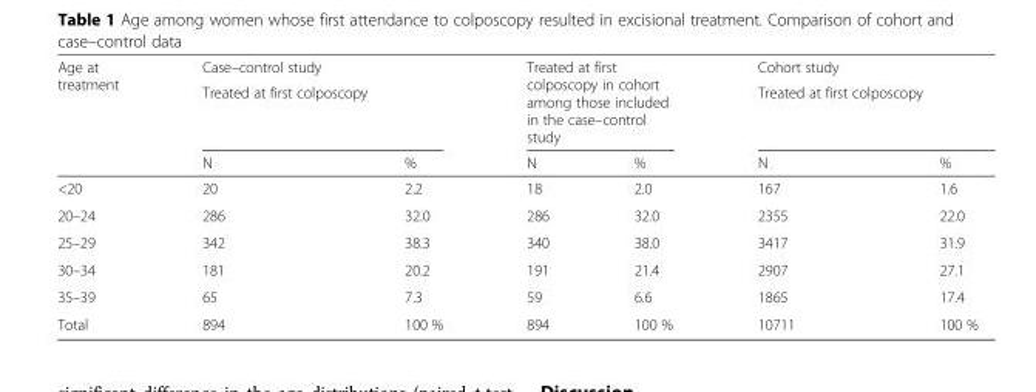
<table><thead><tr><td rowspan="3">Age at treatment</td><td>Case–control study</td><td></td><td rowspan="2" colspan="2">Treated at first colposcopy in cohort among those included in the case–control study</td><td>Cohort study</td><td></td></tr><tr><td colspan="2">Treated at first colposcopy</td><td colspan="2">Treated at first colposcopy</td></tr><tr><td>N</td><td>%</td><td>N</td><td>%</td><td>N</td><td>%</td></tr></thead><tbody><tr><td>&lt;20</td><td>20</td><td>2.2</td><td>18</td><td>2.0</td><td>167</td><td>1.6</td></tr><tr><td>20–24</td><td>286</td><td>32.0</td><td>286</td><td>32.0</td><td>2355</td><td>22.0</td></tr><tr><td>25–29</td><td>342</td><td>38.3</td><td>340</td><td>38.0</td><td>3417</td><td>31.9</td></tr><tr><td>30–34</td><td>181</td><td>20.2</td><td>191</td><td>21.4</td><td>2907</td><td>27.1</td></tr><tr><td>35–39</td><td>65</td><td>7.3</td><td>59</td><td>6.6</td><td>1865</td><td>17.4</td></tr><tr><td>Total</td><td>894</td><td>100 %</td><td>894</td><td>100 %</td><td>10711</td><td>100 %</td></tr></tbody></table>